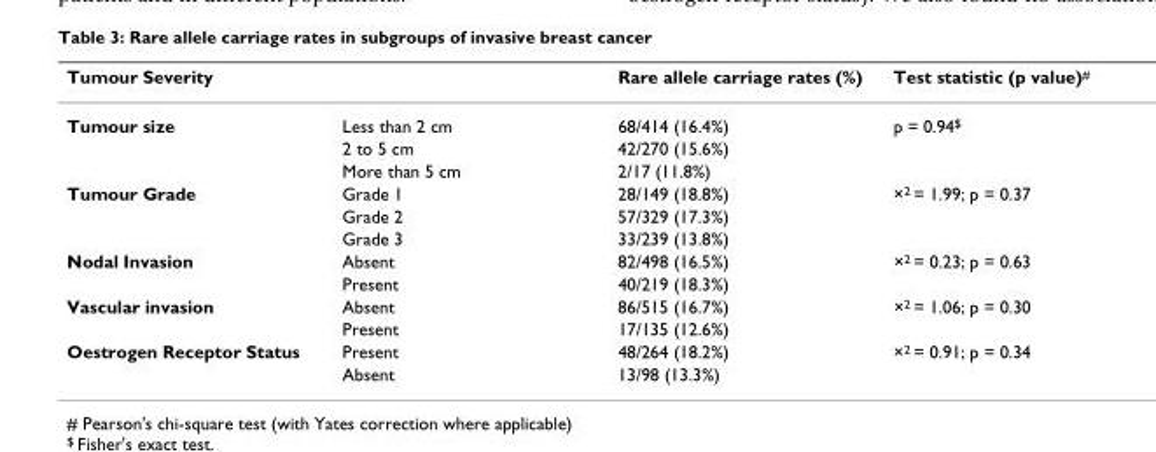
<table><thead><tr><td colspan="2">Tumour Severity</td><td rowspan="2">Rare allele carriage rates (%) 68/414 (16.4%)</td><td rowspan="2">Test statistic (p value)<sup>#</sup> p = 0.94<sup>$</sup></td></tr><tr><td>Tumour size</td><td>Less than 2 cm</td></tr></thead><tbody><tr><td></td><td>2 to 5 cm</td><td>42/270 (15.6%)</td><td></td></tr><tr><td></td><td>More than 5 cm</td><td>2/17 (11.8%)</td><td></td></tr><tr><td rowspan="3">Tumour Grade</td><td>Grade 1</td><td>28/149 (18.8%)</td><td>×<sup>2</sup> = 1.99; p = 0.37</td></tr><tr><td>Grade 2</td><td>57/329 (17.3%)</td><td></td></tr><tr><td>Grade 3</td><td>33/239 (13.8%)</td><td></td></tr><tr><td rowspan="2">Nodal Invasion</td><td>Absent</td><td>82/498 (16.5%)</td><td>×<sup>2</sup> = 0.23; p = 0.63</td></tr><tr><td>Present</td><td>40/219 (18.3%)</td><td></td></tr><tr><td rowspan="2">Vascular invasion</td><td>Absent</td><td>86/515 (16.7%)</td><td>×<sup>2</sup> = 1.06; p = 0.30</td></tr><tr><td>Present</td><td>17/135 (12.6%)</td><td></td></tr><tr><td rowspan="2">Oestrogen Receptor Status</td><td>Present</td><td>48/264 (18.2%)</td><td>×<sup>2</sup> = 0.91; p = 0.34</td></tr><tr><td>Absent</td><td>13/98 (13.3%)</td><td></td></tr></tbody></table>